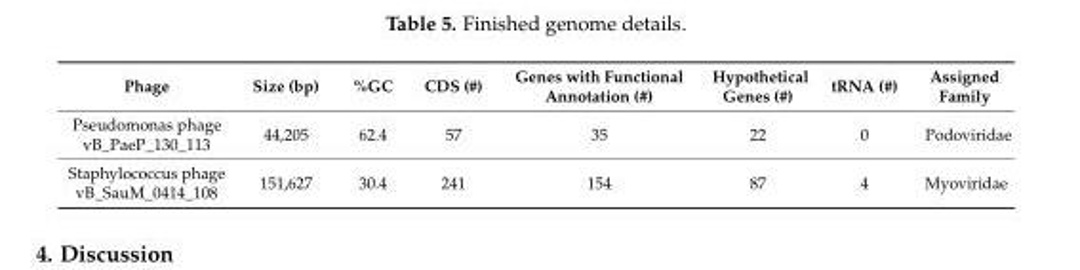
<table><thead><tr><td>Phage</td><td>Size (bp)</td><td>%GC</td><td>CDS (#)</td><td>Genes with Functional Annotation (#)</td><td>Hypothetical Genes (#)</td><td>tRNA (#)</td><td>Assigned Family</td></tr></thead><tbody><tr><td>Pseudomonas phage vB_PaeP_130_113</td><td>44,205</td><td>62.4</td><td>57</td><td>35</td><td>22</td><td>0</td><td>Podoviridae</td></tr><tr><td>Staphylococcus phage vB_SauM_0414_108</td><td>151,627</td><td>30.4</td><td>241</td><td>154</td><td>87</td><td>4</td><td>Myoviridae</td></tr></tbody></table>